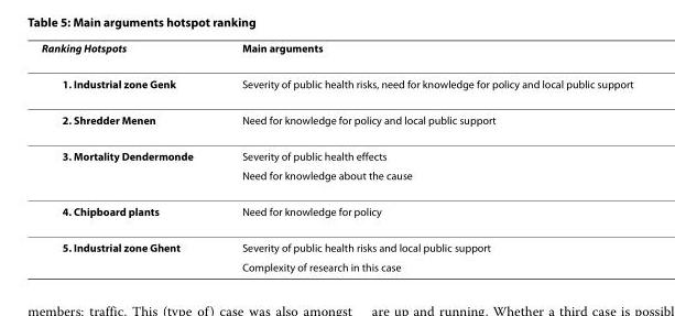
<table><thead><tr><td>Ranking Hotspots</td><td>Main arguments</td></tr></thead><tbody><tr><td>1. Industrial zone Genk</td><td>Severity of public health risks, need for knowledge for policy and local public support</td></tr><tr><td>2. Shredder Menen</td><td>Need for knowledge for policy and local public support</td></tr><tr><td rowspan="2">3. Mortality Dendermonde</td><td>Severity of public health effects</td></tr><tr><td>Need for knowledge about the cause</td></tr><tr><td>4. Chipboard plants</td><td>Need for knowledge for policy</td></tr><tr><td rowspan="2">5. Industrial zone Ghent</td><td>Severity of public health risks and local public support</td></tr><tr><td>Complexity of research in this case</td></tr></tbody></table>